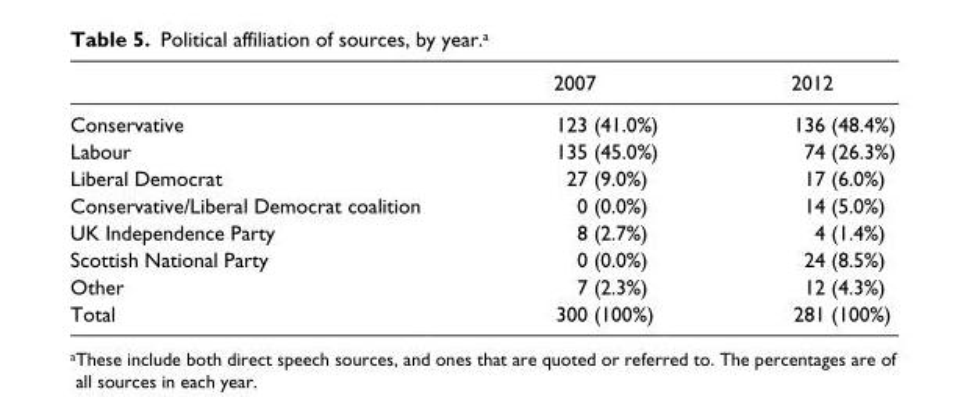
<table><thead><tr><td></td><td>2007</td><td>2012</td></tr></thead><tbody><tr><td>Conservative</td><td>123 (41.0%)</td><td>136 (48.4%)</td></tr><tr><td>Labour</td><td>135 (45.0%)</td><td>74 (26.3%)</td></tr><tr><td>Liberal Democrat</td><td>27 (9.0%)</td><td>17 (6.0%)</td></tr><tr><td>Conservative/Liberal Democrat coalition</td><td>0 (0.0%)</td><td>14 (5.0%)</td></tr><tr><td>UK Independence Party</td><td>8 (2.7%)</td><td>4 (1.4%)</td></tr><tr><td>Scottish National Party</td><td>0 (0.0%)</td><td>24 (8.5%)</td></tr><tr><td>Other</td><td>7 (2.3%)</td><td>12 (4.3%)</td></tr><tr><td>Total</td><td>300 (100%)</td><td>281 (100%)</td></tr></tbody></table>